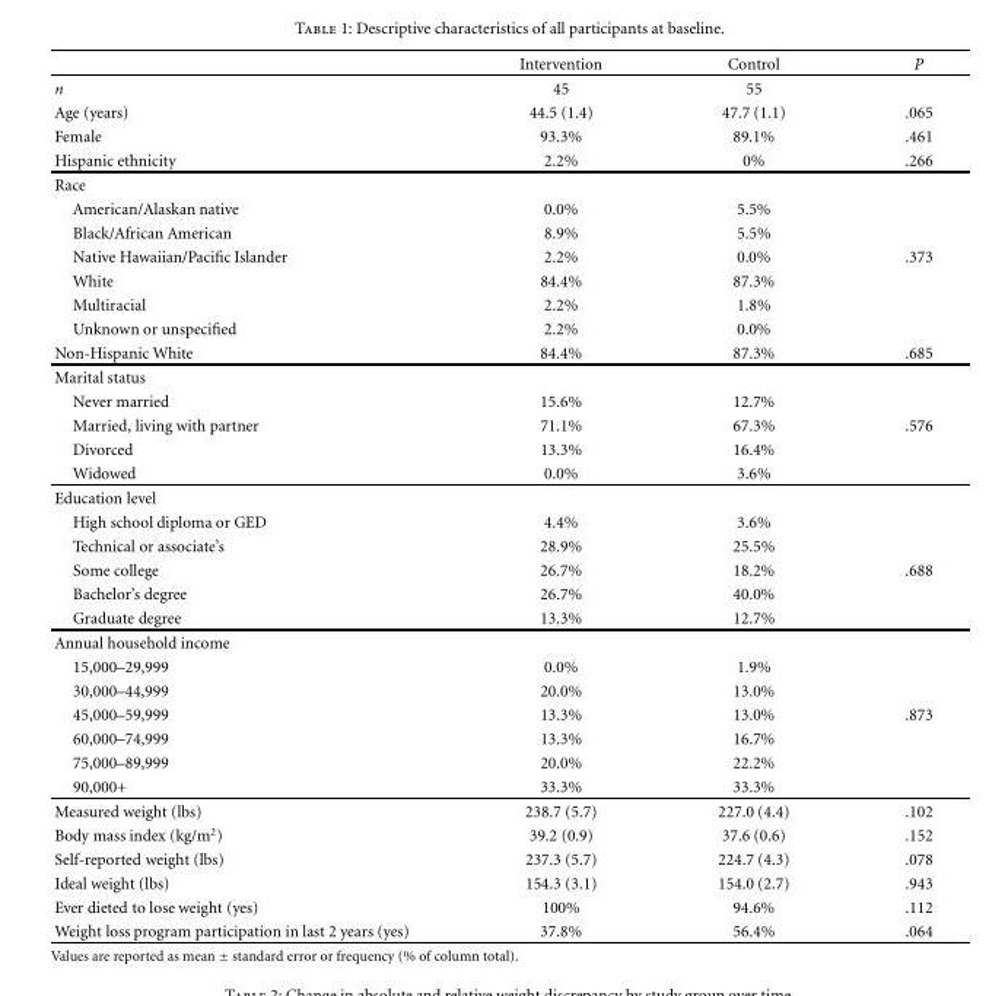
<table><thead><tr><td></td><td>Intervention</td><td>Control</td><td>P</td></tr></thead><tbody><tr><td>n</td><td>45</td><td>55</td><td></td></tr><tr><td>Age (years)</td><td>44.5 (1.4)</td><td>47.7 (1.1)</td><td>.065</td></tr><tr><td>Female</td><td>93.3%</td><td>89.1%</td><td>.461</td></tr><tr><td>Hispanic ethnicity</td><td>2.2%</td><td>0%</td><td>.266</td></tr><tr><td colspan="4">Race</td></tr><tr><td>American/Alaskan native</td><td>0.0%</td><td>5.5%</td><td></td></tr><tr><td>Black/African American</td><td>8.9%</td><td>5.5%</td><td></td></tr><tr><td>Native Hawaiian/Pacific Islander</td><td>2.2%</td><td>0.0%</td><td>.373</td></tr><tr><td>White</td><td>84.4%</td><td>87.3%</td><td></td></tr><tr><td>Multiracial</td><td>2.2%</td><td>1.8%</td><td></td></tr><tr><td>Unknown or unspecified</td><td>2.2%</td><td>0.0%</td><td></td></tr><tr><td>Non-Hispanic White</td><td>84.4%</td><td>87.3%</td><td>.685</td></tr><tr><td colspan="4">Marital status</td></tr><tr><td>Never married</td><td>15.6%</td><td>12.7%</td><td></td></tr><tr><td>Married, living with partner</td><td>71.1%</td><td>67.3%</td><td>.576</td></tr><tr><td>Divorced</td><td>13.3%</td><td>16.4%</td><td></td></tr><tr><td>Widowed</td><td>0.0%</td><td>3.6%</td><td></td></tr><tr><td colspan="4">Education level</td></tr><tr><td>High school diploma or GED</td><td>4.4%</td><td>3.6%</td><td></td></tr><tr><td>Technical or associate’s</td><td>28.9%</td><td>25.5%</td><td></td></tr><tr><td>Some college</td><td>26.7%</td><td>18.2%</td><td>.688</td></tr><tr><td>Bachelor’s degree</td><td>26.7%</td><td>40.0%</td><td></td></tr><tr><td>Graduate degree</td><td>13.3%</td><td>12.7%</td><td></td></tr><tr><td colspan="4">Annual household income</td></tr><tr><td>15,000–29,999</td><td>0.0%</td><td>1.9%</td><td></td></tr><tr><td>30,000–44,999</td><td>20.0%</td><td>13.0%</td><td></td></tr><tr><td>45,000–59,999</td><td>13.3%</td><td>13.0%</td><td>.873</td></tr><tr><td>60,000–74,999</td><td>13.3%</td><td>16.7%</td><td></td></tr><tr><td>75,000–89,999</td><td>20.0%</td><td>22.2%</td><td></td></tr><tr><td>90,000+</td><td>33.3%</td><td>33.3%</td><td></td></tr><tr><td>Measured weight (lbs)</td><td>238.7 (5.7)</td><td>227.0 (4.4)</td><td>.102</td></tr><tr><td>Body mass index (kg/m<sup>2</sup>)</td><td>39.2 (0.9)</td><td>37.6 (0.6)</td><td>.152</td></tr><tr><td>Self-reported weight (lbs)</td><td>237.3 (5.7)</td><td>224.7 (4.3)</td><td>.078</td></tr><tr><td>Ideal weight (lbs)</td><td>154.3 (3.1)</td><td>154.0 (2.7)</td><td>.943</td></tr><tr><td>Ever dieted to lose weight (yes)</td><td>100%</td><td>94.6%</td><td>.112</td></tr><tr><td>Weight loss program participation in last 2 years (yes)</td><td>37.8%</td><td>56.4%</td><td>.064</td></tr></tbody></table>